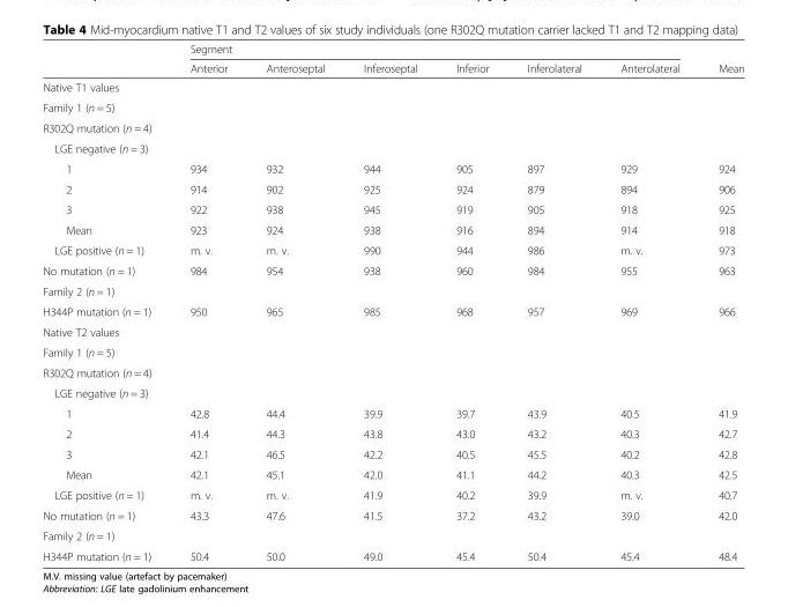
<table><thead><tr><td rowspan="2"></td><td colspan="6">Segment</td><td rowspan="2">Mean</td></tr><tr><td>Anterior</td><td>Anteroseptal</td><td>Inferoseptal</td><td>Inferior</td><td>Inferolateral</td><td>Anterolateral</td></tr></thead><tbody><tr><td colspan="8">Native T1 values</td></tr><tr><td colspan="8">Family 1 (n = 5)</td></tr><tr><td colspan="8">R302Q mutation (n = 4)</td></tr><tr><td colspan="8">LGE negative (n = 3)</td></tr><tr><td>1</td><td>934</td><td>932</td><td>944</td><td>905</td><td>897</td><td>929</td><td>924</td></tr><tr><td>2</td><td>914</td><td>902</td><td>925</td><td>924</td><td>879</td><td>894</td><td>906</td></tr><tr><td>3</td><td>922</td><td>938</td><td>945</td><td>919</td><td>905</td><td>918</td><td>925</td></tr><tr><td>Mean</td><td>923</td><td>924</td><td>938</td><td>916</td><td>894</td><td>914</td><td>918</td></tr><tr><td>LGE positive (n = 1)</td><td>m. v.</td><td>m. v.</td><td>990</td><td>944</td><td>986</td><td>m. v.</td><td>973</td></tr><tr><td>No mutation (n = 1)</td><td>984</td><td>954</td><td>938</td><td>960</td><td>984</td><td>955</td><td>963</td></tr><tr><td colspan="8">Family 2 (n = 1)</td></tr><tr><td>H344P mutation (n = 1)</td><td>950</td><td>965</td><td>985</td><td>968</td><td>957</td><td>969</td><td>966</td></tr><tr><td colspan="8">Native T2 values</td></tr><tr><td colspan="8">Family 1 (n = 5)</td></tr><tr><td colspan="8">R302Q mutation (n = 4)</td></tr><tr><td colspan="8">LGE negative (n = 3)</td></tr><tr><td>1</td><td>42.8</td><td>44.4</td><td>39.9</td><td>39.7</td><td>43.9</td><td>40.5</td><td>41.9</td></tr><tr><td>2</td><td>41.4</td><td>44.3</td><td>43.8</td><td>43.0</td><td>43.2</td><td>40.3</td><td>42.7</td></tr><tr><td>3</td><td>42.1</td><td>46.5</td><td>42.2</td><td>40.5</td><td>45.5</td><td>40.2</td><td>42.8</td></tr><tr><td>Mean</td><td>42.1</td><td>45.1</td><td>42.0</td><td>41.1</td><td>44.2</td><td>40.3</td><td>42.5</td></tr><tr><td>LGE positive (n = 1)</td><td>m. v.</td><td>m. v.</td><td>41.9</td><td>40.2</td><td>39.9</td><td>m. v.</td><td>40.7</td></tr><tr><td>No mutation (n = 1)</td><td>43.3</td><td>47.6</td><td>41.5</td><td>37.2</td><td>43.2</td><td>39.0</td><td>42.0</td></tr><tr><td colspan="8">Family 2 (n = 1)</td></tr><tr><td>H344P mutation (n = 1)</td><td>50.4</td><td>50.0</td><td>49.0</td><td>45.4</td><td>50.4</td><td>45.4</td><td>48.4</td></tr></tbody></table>